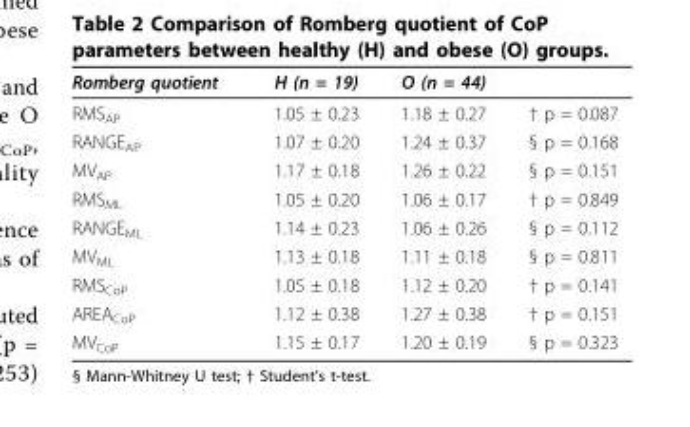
<table><thead><tr><td>Romberg quotient</td><td>H (n = 19)</td><td>O (n = 44)</td><td></td></tr></thead><tbody><tr><td>RMS<sub>AP</sub></td><td>1.05 ± 0.23</td><td>1.18 ± 0.27</td><td>† p = 0.087</td></tr><tr><td>RANGE<sub>AP</sub></td><td>1.07 ± 0.20</td><td>1.24 ± 0.37</td><td>§ p = 0.168</td></tr><tr><td>MV<sub>AP</sub></td><td>1.17 ± 0.18</td><td>1.26 ± 0.22</td><td>§ p = 0.151</td></tr><tr><td>RMS<sub>ML</sub></td><td>1.05 ± 0.20</td><td>1.06 ± 0.17</td><td>† p = 0.849</td></tr><tr><td>RANGE<sub>ML</sub></td><td>1.14 ± 0.23</td><td>1.06 ± 0.26</td><td>§ p = 0.112</td></tr><tr><td>MV<sub>ML</sub></td><td>1.13 ± 0.18</td><td>1.11 ± 0.18</td><td>§ p = 0.811</td></tr><tr><td>RMS<sub>CoP</sub></td><td>1.05 ± 0.18</td><td>1.12 ± 0.20</td><td>† p = 0.141</td></tr><tr><td>AREA<sub>CoP</sub></td><td>1.12 ± 0.38</td><td>1.27 ± 0.38</td><td>† p = 0.151</td></tr><tr><td>MV<sub>CoP</sub></td><td>1.15 ± 0.17</td><td>1.20 ± 0.19</td><td>§ p = 0.323</td></tr></tbody></table>